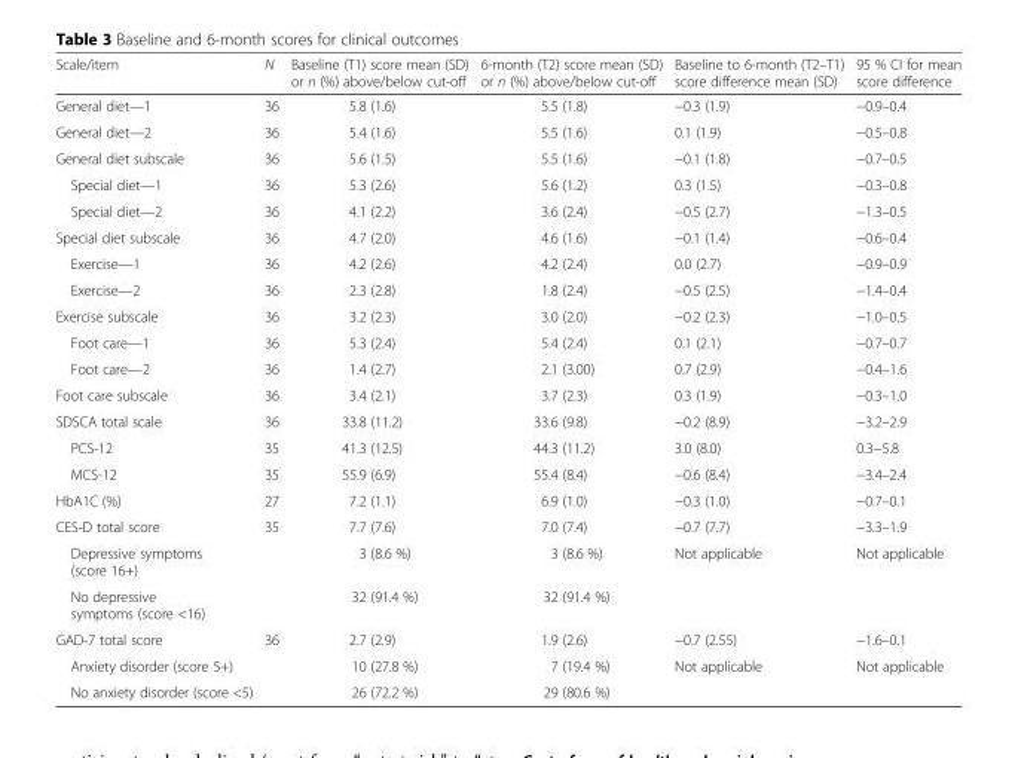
<table><thead><tr><td>Scale/item</td><td>N</td><td>Baseline (T1) score mean (SD) or n (%) above/below cut-off</td><td>6-month (T2) score mean (SD) or n (%) above/below cut-off</td><td>Baseline to 6-month (T2–T1) score difference mean (SD)</td><td>95 % CI for mean score difference</td></tr></thead><tbody><tr><td>General diet—1</td><td>36</td><td>5.8 (1.6)</td><td>5.5 (1.8)</td><td>−0.3 (1.9)</td><td>−0.9–0.4</td></tr><tr><td>General diet—2</td><td>36</td><td>5.4 (1.6)</td><td>5.5 (1.6)</td><td>0.1 (1.9)</td><td>−0.5–0.8</td></tr><tr><td>General diet subscale</td><td>36</td><td>5.6 (1.5)</td><td>5.5 (1.6)</td><td>−0.1 (1.8)</td><td>−0.7–0.5</td></tr><tr><td>Special diet—1</td><td>36</td><td>5.3 (2.6)</td><td>5.6 (1.2)</td><td>0.3 (1.5)</td><td>−0.3–0.8</td></tr><tr><td>Special diet—2</td><td>36</td><td>4.1 (2.2)</td><td>3.6 (2.4)</td><td>−0.5 (2.7)</td><td>−1.3–0.5</td></tr><tr><td>Special diet subscale</td><td>36</td><td>4.7 (2.0)</td><td>4.6 (1.6)</td><td>−0.1 (1.4)</td><td>−0.6–0.4</td></tr><tr><td>Exercise—1</td><td>36</td><td>4.2 (2.6)</td><td>4.2 (2.4)</td><td>0.0 (2.7)</td><td>−0.9–0.9</td></tr><tr><td>Exercise—2</td><td>36</td><td>2.3 (2.8)</td><td>1.8 (2.4)</td><td>−0.5 (2.5)</td><td>−1.4–0.4</td></tr><tr><td>Exercise subscale</td><td>36</td><td>3.2 (2.3)</td><td>3.0 (2.0)</td><td>−0.2 (2.3)</td><td>−1.0–0.5</td></tr><tr><td>Foot care—1</td><td>36</td><td>5.3 (2.4)</td><td>5.4 (2.4)</td><td>0.1 (2.1)</td><td>−0.7–0.7</td></tr><tr><td>Foot care—2</td><td>36</td><td>1.4 (2.7)</td><td>2.1 (3.00)</td><td>0.7 (2.9)</td><td>−0.4–1.6</td></tr><tr><td>Foot care subscale</td><td>36</td><td>3.4 (2.1)</td><td>3.7 (2.3)</td><td>0.3 (1.9)</td><td>−0.3–1.0</td></tr><tr><td>SDSCA total scale</td><td>36</td><td>33.8 (11.2)</td><td>33.6 (9.8)</td><td>−0.2 (8.9)</td><td>−3.2–2.9</td></tr><tr><td>PCS-12</td><td>35</td><td>41.3 (12.5)</td><td>44.3 (11.2)</td><td>3.0 (8.0)</td><td>0.3−5.8</td></tr><tr><td>MCS-12</td><td>35</td><td>55.9 (6.9)</td><td>55.4 (8.4)</td><td>−0.6 (8.4)</td><td>−3.4–2.4</td></tr><tr><td>HbA1C (%)</td><td>27</td><td>7.2 (1.1)</td><td>6.9 (1.0)</td><td>−0.3 (1.0)</td><td>−0.7–0.1</td></tr><tr><td>CES-D total score</td><td>35</td><td>7.7 (7.6)</td><td>7.0 (7.4)</td><td>−0.7 (7.7)</td><td>−3.3–1.9</td></tr><tr><td>Depressive symptoms (score 16+)</td><td></td><td>3 (8.6 %)</td><td>3 (8.6 %)</td><td rowspan="2">Not applicable</td><td rowspan="2">Not applicable</td></tr><tr><td>No depressive symptoms (score &lt;16)</td><td></td><td>32 (91.4 %)</td><td>32 (91.4 %)</td></tr><tr><td>GAD-7 total score</td><td>36</td><td>2.7 (2.9)</td><td>1.9 (2.6)</td><td>−0.7 (2.55)</td><td>−1.6–0.1</td></tr><tr><td>Anxiety disorder (score 5+)</td><td></td><td>10 (27.8 %)</td><td>7 (19.4 %)</td><td rowspan="2">Not applicable</td><td rowspan="2">Not applicable</td></tr><tr><td>No anxiety disorder (score &lt;5)</td><td></td><td>26 (72.2 %)</td><td>29 (80.6 %)</td></tr></tbody></table>